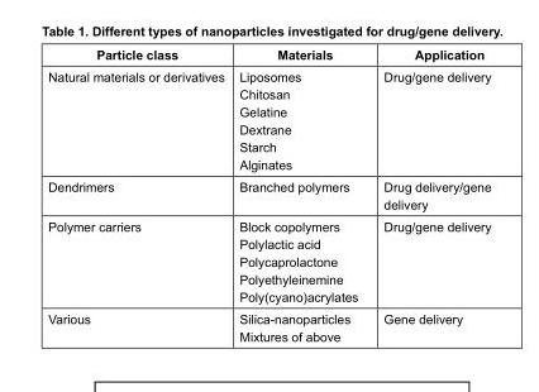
<table><thead><tr><td>Particle class</td><td>Materials</td><td>Application</td></tr></thead><tbody><tr><td>Natural materials or derivatives</td><td>Liposomes Chitosan Gelatine Dextrane Starch Alginates</td><td>Drug/gene delivery</td></tr><tr><td>Dendrimers</td><td>Branched polymers</td><td>Drug delivery/gene delivery</td></tr><tr><td>Polymer carriers</td><td>Block copolymers Polylactic acid Polycaprolactone Polyethyleinemine Poly(cyano)acrylates</td><td>Drug/gene delivery</td></tr><tr><td>Various</td><td>Silica-nanoparticles Mixtures of above</td><td>Gene delivery</td></tr></tbody></table>